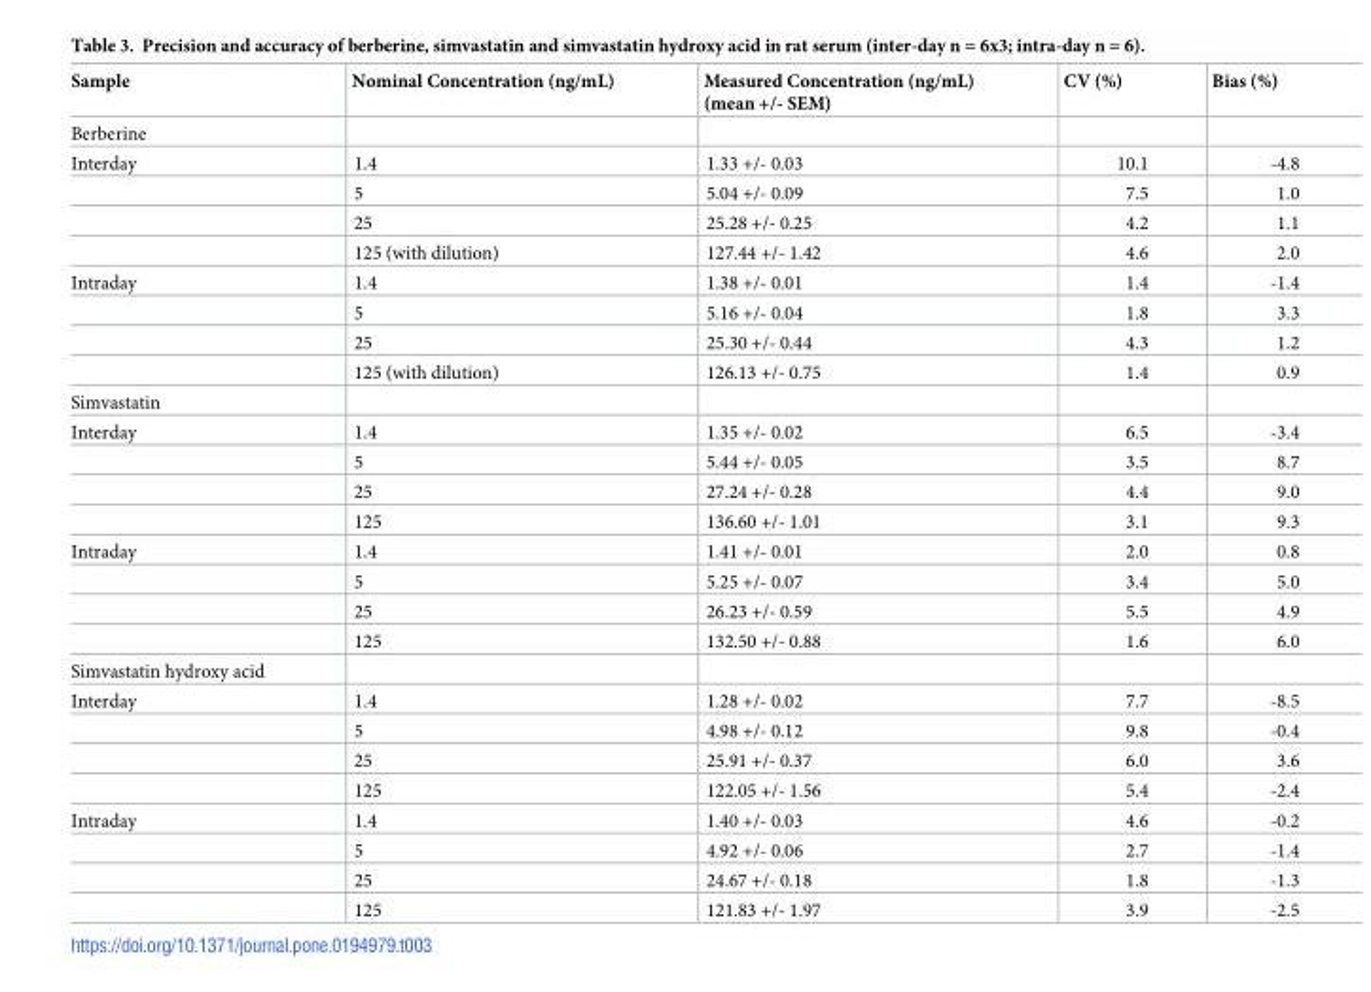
<table><thead><tr><td>Sample</td><td>Nominal Concentration (ng/mL)</td><td>Measured Concentration (ng/mL) (mean +/- SEM)</td><td>CV (%)</td><td>Bias (%)</td></tr></thead><tbody><tr><td colspan="5">Berberine</td></tr><tr><td rowspan="4">Interday</td><td>1.4</td><td>1.33 +/- 0.03</td><td>10.1</td><td>-4.8</td></tr><tr><td>5</td><td>5.04 +/- 0.09</td><td>7.5</td><td>1.0</td></tr><tr><td>25</td><td>25.28 +/- 0.25</td><td>4.2</td><td>1.1</td></tr><tr><td>125 (with dilution)</td><td>127.44 +/- 1.42</td><td>4.6</td><td>2.0</td></tr><tr><td rowspan="4">Intraday</td><td>1.4</td><td>1.38 +/- 0.01</td><td>1.4</td><td>-1.4</td></tr><tr><td>5</td><td>5.16 +/- 0.04</td><td>1.8</td><td>3.3</td></tr><tr><td>25</td><td>25.30 +/- 0.44</td><td>4.3</td><td>1.2</td></tr><tr><td>125 (with dilution)</td><td>126.13 +/- 0.75</td><td>1.4</td><td>0.9</td></tr><tr><td colspan="5">Simvastatin</td></tr><tr><td rowspan="4">Interday</td><td>1.4</td><td>1.35 +/- 0.02</td><td>6.5</td><td>-3.4</td></tr><tr><td>5</td><td>5.44 +/- 0.05</td><td>3.5</td><td>8.7</td></tr><tr><td>25</td><td>27.24 +/- 0.28</td><td>4.4</td><td>9.0</td></tr><tr><td>125</td><td>136.60 +/- 1.01</td><td>3.1</td><td>9.3</td></tr><tr><td rowspan="4">Intraday</td><td>1.4</td><td>1.41 +/- 0.01</td><td>2.0</td><td>0.8</td></tr><tr><td>5</td><td>5.25 +/- 0.07</td><td>3.4</td><td>5.0</td></tr><tr><td>25</td><td>26.23 +/- 0.59</td><td>5.5</td><td>4.9</td></tr><tr><td>125</td><td>132.50 +/- 0.88</td><td>1.6</td><td>6.0</td></tr><tr><td colspan="5">Simvastatin hydroxy acid</td></tr><tr><td rowspan="4">Interday</td><td>1.4</td><td>1.28 +/- 0.02</td><td>7.7</td><td>-8.5</td></tr><tr><td>5</td><td>4.98 +/- 0.12</td><td>9.8</td><td>-0.4</td></tr><tr><td>25</td><td>25.91 +/- 0.37</td><td>6.0</td><td>3.6</td></tr><tr><td>125</td><td>122.05 +/- 1.56</td><td>5.4</td><td>-2.4</td></tr><tr><td rowspan="4">Intraday</td><td>1.4</td><td>1.40 +/- 0.03</td><td>4.6</td><td>-0.2</td></tr><tr><td>5</td><td>4.92 +/- 0.06</td><td>2.7</td><td>-1.4</td></tr><tr><td>25</td><td>24.67 +/- 0.18</td><td>1.8</td><td>-1.3</td></tr><tr><td>125</td><td>121.83 +/- 1.97</td><td>3.9</td><td>-2.5</td></tr></tbody></table>